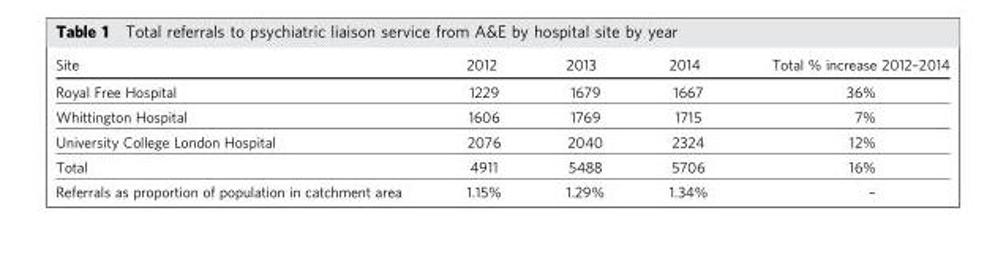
<table><thead><tr><td>Site</td><td>2012</td><td>2013</td><td>2014</td><td>Total % increase 2012–2014</td></tr></thead><tbody><tr><td>Royal Free Hospital</td><td>1229</td><td>1679</td><td>1667</td><td>36%</td></tr><tr><td>Whittington Hospital</td><td>1606</td><td>1769</td><td>1715</td><td>7%</td></tr><tr><td>University College London Hospital</td><td>2076</td><td>2040</td><td>2324</td><td>12%</td></tr><tr><td>Total</td><td>4911</td><td>5488</td><td>5706</td><td>16%</td></tr><tr><td>Referrals as proportion of population in catchment area</td><td>1.15%</td><td>1.29%</td><td>1.34%</td><td>–</td></tr></tbody></table>